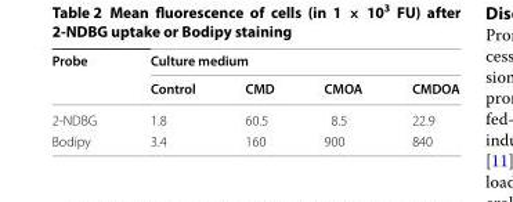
<table><thead><tr><td rowspan="2">Probe</td><td colspan="4">Culture medium</td></tr><tr><td>Control</td><td>CMD</td><td>CMOA</td><td>CMDOA</td></tr></thead><tbody><tr><td>2‑NDBG</td><td>1.8</td><td>60.5</td><td>8.5</td><td>22.9</td></tr><tr><td>Bodipy</td><td>3.4</td><td>160</td><td>900</td><td>840</td></tr></tbody></table>